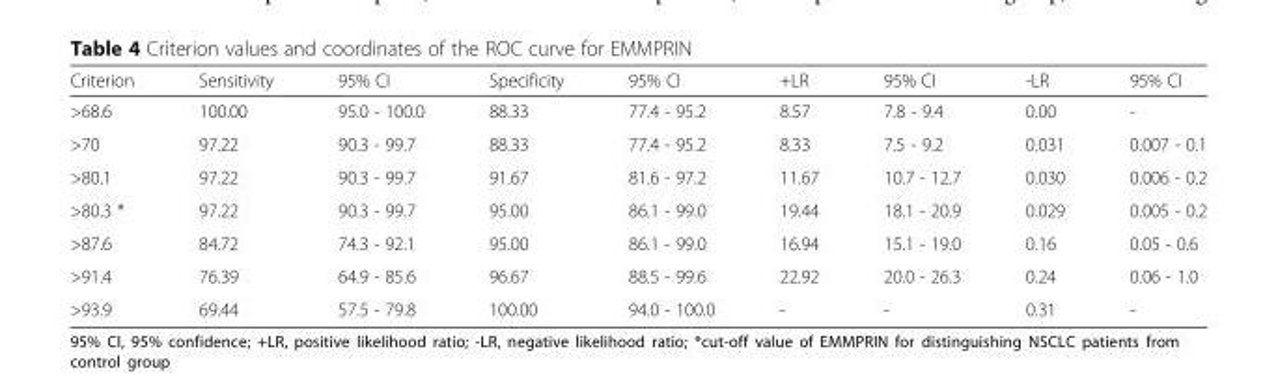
<table><thead><tr><td>Criterion</td><td>Sensitivity</td><td>95% CI</td><td>Specificity</td><td>95% CI</td><td>+LR</td><td>95% CI</td><td>-LR</td><td>95% CI</td></tr></thead><tbody><tr><td>&gt;68.6</td><td>100.00</td><td>95.0 - 100.0</td><td>88.33</td><td>77.4 - 95.2</td><td>8.57</td><td>7.8 - 9.4</td><td>0.00</td><td>-</td></tr><tr><td>&gt;70</td><td>97.22</td><td>90.3 - 99.7</td><td>88.33</td><td>77.4 - 95.2</td><td>8.33</td><td>7.5 - 9.2</td><td>0.031</td><td>0.007 - 0.1</td></tr><tr><td>&gt;80.1</td><td>97.22</td><td>90.3 - 99.7</td><td>91.67</td><td>81.6 - 97.2</td><td>11.67</td><td>10.7 - 12.7</td><td>0.030</td><td>0.006 - 0.2</td></tr><tr><td>&gt;80.3 *</td><td>97.22</td><td>90.3 - 99.7</td><td>95.00</td><td>86.1 - 99.0</td><td>19.44</td><td>18.1 - 20.9</td><td>0.029</td><td>0.005 - 0.2</td></tr><tr><td>&gt;87.6</td><td>84.72</td><td>74.3 - 92.1</td><td>95.00</td><td>86.1 - 99.0</td><td>16.94</td><td>15.1 - 19.0</td><td>0.16</td><td>0.05 - 0.6</td></tr><tr><td>&gt;91.4</td><td>76.39</td><td>64.9 - 85.6</td><td>96.67</td><td>88.5 - 99.6</td><td>22.92</td><td>20.0 - 26.3</td><td>0.24</td><td>0.06 - 1.0</td></tr><tr><td>&gt;93.9</td><td>69.44</td><td>57.5 - 79.8</td><td>100.00</td><td>94.0 - 100.0</td><td>-</td><td>-</td><td>0.31</td><td>-</td></tr></tbody></table>